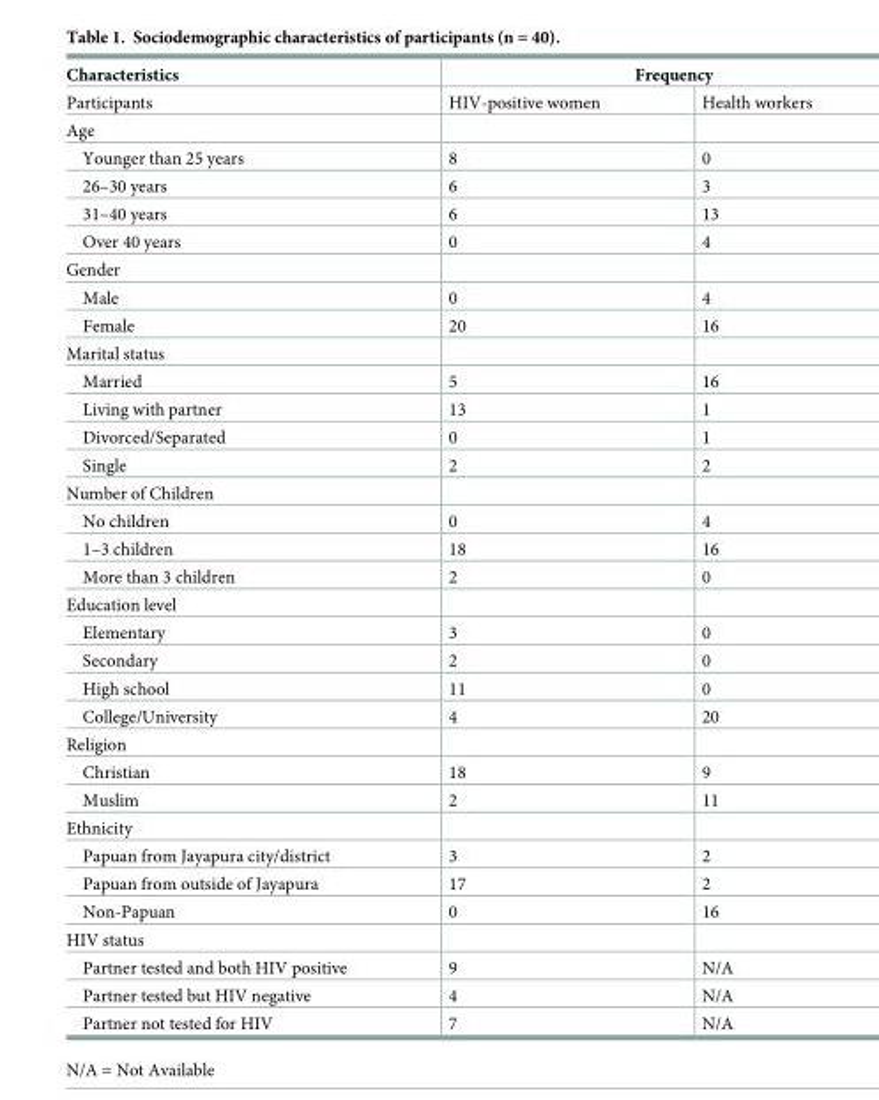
<table><thead><tr><td rowspan="2">Characteristics Participants</td><td colspan="2">Frequency</td></tr><tr><td>HIV-positive women</td><td>Health workers</td></tr></thead><tbody><tr><td colspan="3">Age</td></tr><tr><td>Younger than 25 years</td><td>8</td><td>0</td></tr><tr><td>26–30 years</td><td>6</td><td>3</td></tr><tr><td>31–40 years</td><td>6</td><td>13</td></tr><tr><td>Over 40 years</td><td>0</td><td>4</td></tr><tr><td colspan="3">Gender</td></tr><tr><td>Male</td><td>0</td><td>4</td></tr><tr><td>Female</td><td>20</td><td>16</td></tr><tr><td colspan="3">Marital status</td></tr><tr><td>Married</td><td>5</td><td>16</td></tr><tr><td>Living with partner</td><td>13</td><td>1</td></tr><tr><td>Divorced/Separated</td><td>0</td><td>1</td></tr><tr><td>Single</td><td>2</td><td>2</td></tr><tr><td colspan="3">Number of Children</td></tr><tr><td>No children</td><td>0</td><td>4</td></tr><tr><td>1–3 children</td><td>18</td><td>16</td></tr><tr><td>More than 3 children</td><td>2</td><td>0</td></tr><tr><td colspan="3">Education level</td></tr><tr><td>Elementary</td><td>3</td><td>0</td></tr><tr><td>Secondary</td><td>2</td><td>0</td></tr><tr><td>High school</td><td>11</td><td>0</td></tr><tr><td>College/University</td><td>4</td><td>20</td></tr><tr><td colspan="3">Religion</td></tr><tr><td>Christian</td><td>18</td><td>9</td></tr><tr><td>Muslim</td><td>2</td><td>11</td></tr><tr><td colspan="3">Ethnicity</td></tr><tr><td>Papuan from Jayapura city/district</td><td>3</td><td>2</td></tr><tr><td>Papuan from outside of Jayapura</td><td>17</td><td>2</td></tr><tr><td>Non-Papuan</td><td>0</td><td>16</td></tr><tr><td colspan="3">HIV status</td></tr><tr><td>Partner tested and both HIV positive</td><td>9</td><td>N/A</td></tr><tr><td>Partner tested but HIV negative</td><td>4</td><td>N/A</td></tr><tr><td>Partner not tested for HIV</td><td>7</td><td>N/A</td></tr></tbody></table>